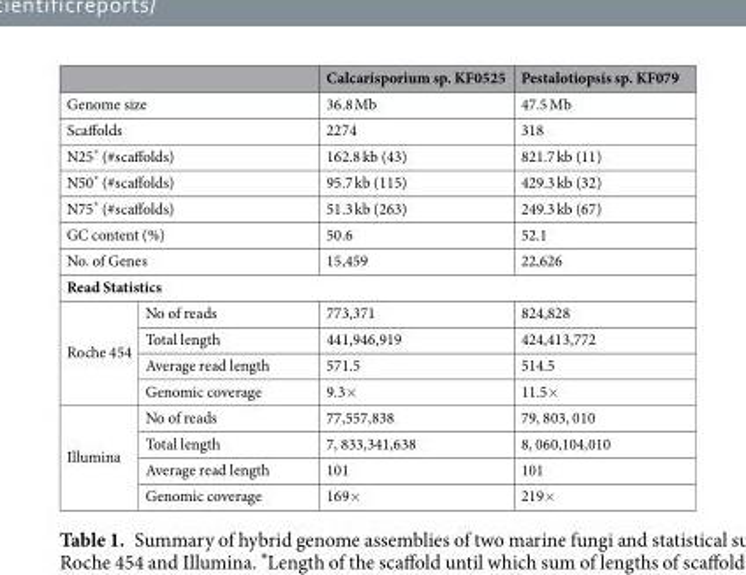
<table><thead><tr><td></td><td></td><td>Calcarisporium sp. KF0525</td><td>Pestalotiopsis sp. KF079</td></tr></thead><tbody><tr><td colspan="2">Genome size</td><td>36.8 Mb</td><td>47.5 Mb</td></tr><tr><td colspan="2">Scaffolds</td><td>2274</td><td>318</td></tr><tr><td colspan="2">N25* (#scaffolds)</td><td>162.8 kb (43)</td><td>821.7 kb (11)</td></tr><tr><td colspan="2">N50* (#scaffolds)</td><td>95.7 kb (115)</td><td>429.3 kb (32)</td></tr><tr><td colspan="2">N75* (#scaffolds)</td><td>51.3 kb (263)</td><td>249.3 kb (67)</td></tr><tr><td colspan="2">GC content (%)</td><td>50.6</td><td>52.1</td></tr><tr><td colspan="2">No. of Genes</td><td>15,459</td><td>22,626</td></tr><tr><td colspan="4">Read Statistics</td></tr><tr><td rowspan="4">Roche 454</td><td>No of reads</td><td>773,371</td><td>824,828</td></tr><tr><td>Total length</td><td>441,946,919</td><td>424,413,772</td></tr><tr><td>Average read length</td><td>571.5</td><td>514.5</td></tr><tr><td>Genomic coverage</td><td>9.3×</td><td>11.5×</td></tr><tr><td rowspan="4">Illumina</td><td>No of reads</td><td>77,557,838</td><td>79, 803, 010</td></tr><tr><td>Total length</td><td>7, 833,341,638</td><td>8, 060,104,010</td></tr><tr><td>Average read length</td><td>101</td><td>101</td></tr><tr><td>Genomic coverage</td><td>169×</td><td>219×</td></tr></tbody></table>